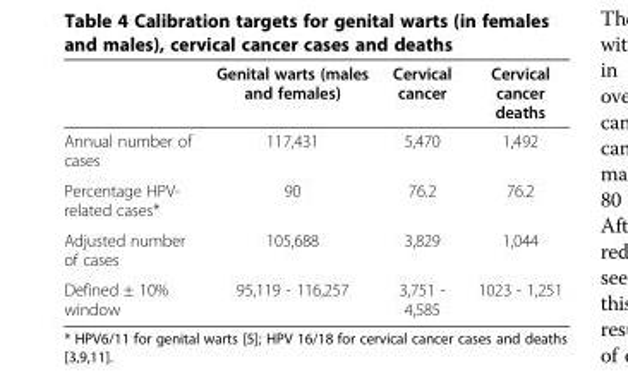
<table><thead><tr><td></td><td>Genital warts (males and females)</td><td>Cervical cancer</td><td>Cervical cancer deaths</td></tr></thead><tbody><tr><td>Annual number of cases</td><td>117,431</td><td>5,470</td><td>1,492</td></tr><tr><td>Percentage HPV- related cases*</td><td>90</td><td>76.2</td><td>76.2</td></tr><tr><td>Adjusted number of cases</td><td>105,688</td><td>3,829</td><td>1,044</td></tr><tr><td>Defined ± 10% window</td><td>95,119 - 116,257</td><td>3,751 - 4,585</td><td>1023 - 1,251</td></tr></tbody></table>